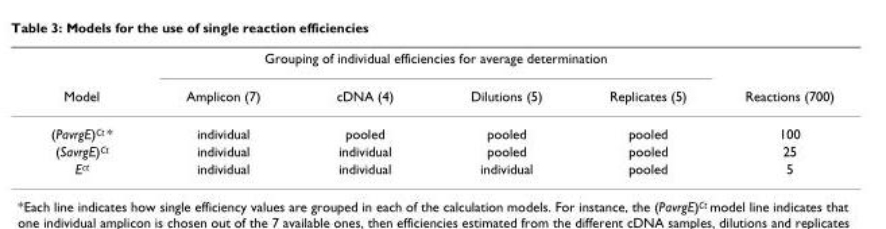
<table><thead><tr><td rowspan="2">Model</td><td colspan="4">Grouping of individual efficiencies for average determination</td><td rowspan="2">Reactions (700)</td></tr><tr><td>Amplicon (7)</td><td>cDNA (4)</td><td>Dilutions (5)</td><td>Replicates (5)</td></tr></thead><tbody><tr><td>(PavrgE)<sup>Ct</sup> *</td><td>individual</td><td>pooled</td><td>pooled</td><td>pooled</td><td>100</td></tr><tr><td>(SavrgE)<sup>Ct</sup></td><td>individual</td><td>individual</td><td>pooled</td><td>pooled</td><td>25</td></tr><tr><td>E<sup>ct</sup></td><td>individual</td><td>individual</td><td>individual</td><td>pooled</td><td>5</td></tr></tbody></table>